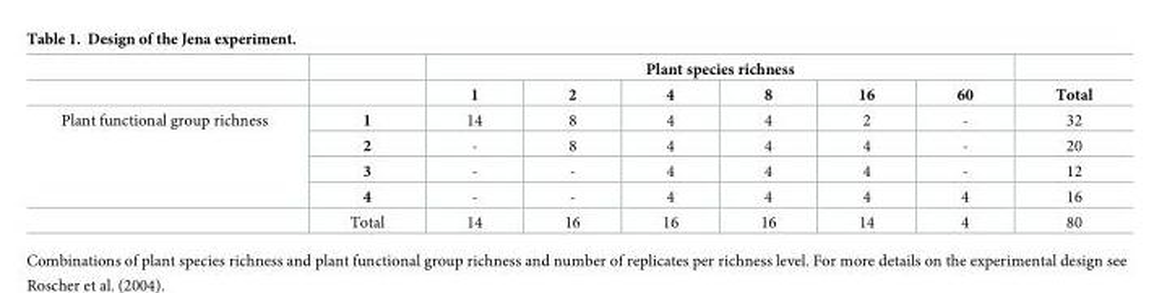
<table><thead><tr><td rowspan="2"></td><td rowspan="2"></td><td colspan="6">Plant species richness</td><td rowspan="2">Total</td></tr><tr><td>1</td><td>2</td><td>4</td><td>8</td><td>16</td><td>60</td></tr></thead><tbody><tr><td rowspan="5">Plant functional group richness</td><td>1</td><td>14</td><td>8</td><td>4</td><td>4</td><td>2</td><td>-</td><td>32</td></tr><tr><td>2</td><td>-</td><td>8</td><td>4</td><td>4</td><td>4</td><td>-</td><td>20</td></tr><tr><td>3</td><td>-</td><td>-</td><td>4</td><td>4</td><td>4</td><td>-</td><td>12</td></tr><tr><td>4</td><td>-</td><td>-</td><td>4</td><td>4</td><td>4</td><td>4</td><td>16</td></tr><tr><td>Total</td><td>14</td><td>16</td><td>16</td><td>16</td><td>14</td><td>4</td><td>80</td></tr></tbody></table>